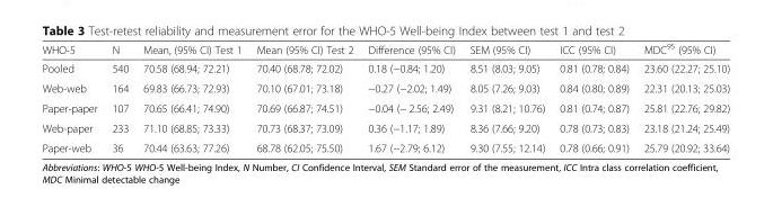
<table><thead><tr><td>WHO-5</td><td>N</td><td>Mean, (95% CI) Test 1</td><td>Mean (95% CI) Test 2</td><td>Difference (95% CI)</td><td>SEM (95% CI)</td><td>ICC (95% CI)</td><td>MDC<sup>95</sup> (95% CI)</td></tr></thead><tbody><tr><td>Pooled</td><td>540</td><td>70.58 (68.94; 72.21)</td><td>70.40 (68.78; 72.02)</td><td>0.18 (−0.84; 1.20)</td><td>8.51 (8.03; 9.05)</td><td>0.81 (0.78; 0.84)</td><td>23.60 (22.27; 25.10)</td></tr><tr><td>Web-web</td><td>164</td><td>69.83 (66.73; 72.93)</td><td>70.10 (67.01; 73.18)</td><td>−0.27 (−2.02; 1.49)</td><td>8.05 (7.26; 9.03)</td><td>0.84 (0.80; 0.89)</td><td>22.31 (20.13; 25.03)</td></tr><tr><td>Paper-paper</td><td>107</td><td>70.65 (66.41; 74.90)</td><td>70.69 (66.87; 74.51)</td><td>−0.04 (− 2.56; 2.49)</td><td>9.31 (8.21; 10.76)</td><td>0.81 (0.74; 0.87)</td><td>25.81 (22.76; 29.82)</td></tr><tr><td>Web-paper</td><td>233</td><td>71.10 (68.85; 73.33)</td><td>70.73 (68.37; 73.09)</td><td>0.36 (−1.17; 1.89)</td><td>8.36 (7.66; 9.20)</td><td>0.78 (0.73; 0.83)</td><td>23.18 (21.24; 25.49)</td></tr><tr><td>Paper-web</td><td>36</td><td>70.44 (63.63; 77.26)</td><td>68.78 (62.05; 75.50)</td><td>1.67 (−2.79; 6.12)</td><td>9.30 (7.55; 12.14)</td><td>0.78 (0.66; 0.91)</td><td>25.79 (20.92; 33.64)</td></tr></tbody></table>